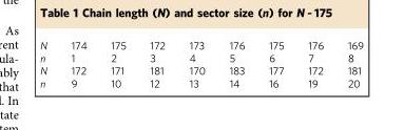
<table><tbody><tr><td>N</td><td>174</td><td>175</td><td>172</td><td>173</td><td>176</td><td>175</td><td>176</td><td>169</td></tr><tr><td>n</td><td>1</td><td>2</td><td>3</td><td>4</td><td>5</td><td>6</td><td>7</td><td>8</td></tr><tr><td>N</td><td>172</td><td>171</td><td>181</td><td>170</td><td>183</td><td>177</td><td>172</td><td>181</td></tr><tr><td>n</td><td>9</td><td>10</td><td>12</td><td>13</td><td>14</td><td>16</td><td>19</td><td>20</td></tr></tbody></table>